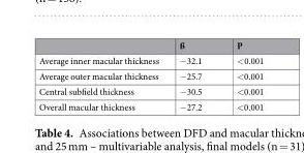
<table><thead><tr><td></td><td>ß</td><td>P</td></tr></thead><tbody><tr><td>Average inner macular thickness</td><td>−32.1</td><td>&lt;0.001</td></tr><tr><td>Average outer macular thickness</td><td>−25.7</td><td>&lt;0.001</td></tr><tr><td>Central subfield thickness</td><td>−30.5</td><td>&lt;0.001</td></tr><tr><td>Overall macular thickness</td><td>−27.2</td><td>&lt;0.001</td></tr></tbody></table>